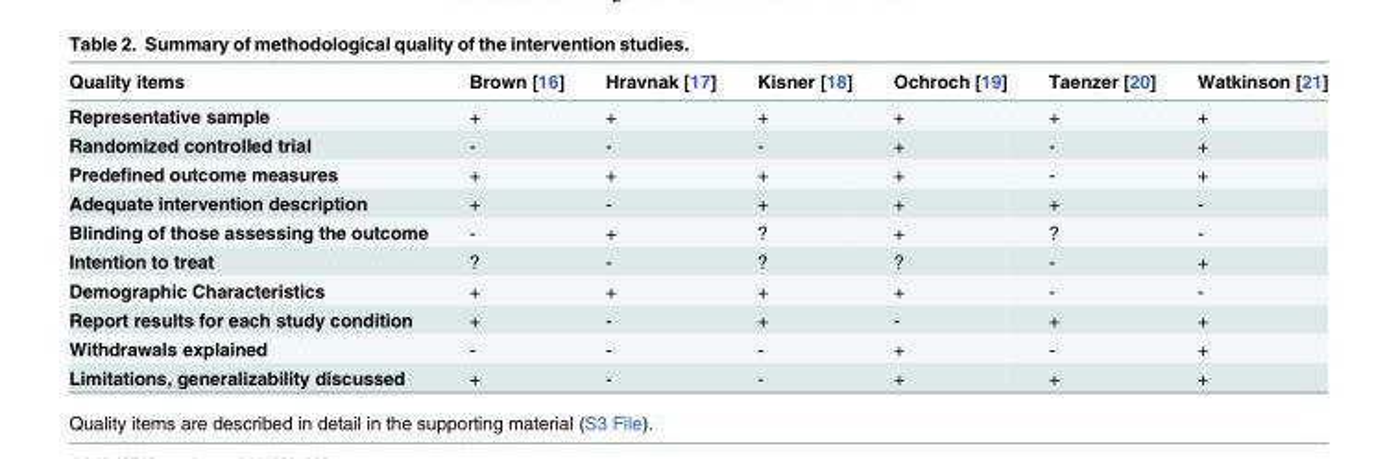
<table><thead><tr><td>Quality items</td><td>Brown [16]</td><td>Hravnak [17]</td><td>Kisner [18]</td><td>Ochroch [19]</td><td>Taenzer [20]</td><td>Watkinson [21]</td></tr></thead><tbody><tr><td>Representative sample</td><td>+</td><td>+</td><td>+</td><td>+</td><td>+</td><td>+</td></tr><tr><td>Randomized controlled trial</td><td>-</td><td>-</td><td>-</td><td>+</td><td>-</td><td>+</td></tr><tr><td>Predefined outcome measures</td><td>+</td><td>+</td><td>+</td><td>+</td><td>-</td><td>+</td></tr><tr><td>Adequate intervention description</td><td>+</td><td>-</td><td>+</td><td>+</td><td>+</td><td>-</td></tr><tr><td>Blinding of those assessing the outcome</td><td>-</td><td>+</td><td>?</td><td>+</td><td>?</td><td>-</td></tr><tr><td>Intention to treat</td><td>?</td><td>-</td><td>?</td><td>?</td><td>-</td><td>+</td></tr><tr><td>Demographic Characteristics</td><td>+</td><td>+</td><td>+</td><td>+</td><td>-</td><td>-</td></tr><tr><td>Report results for each study condition</td><td>+</td><td>-</td><td>+</td><td>-</td><td>+</td><td>+</td></tr><tr><td>Withdrawals explained</td><td>-</td><td>-</td><td>-</td><td>+</td><td>-</td><td>+</td></tr><tr><td>Limitations, generalizability discussed</td><td>+</td><td>-</td><td>-</td><td>+</td><td>+</td><td>+</td></tr></tbody></table>